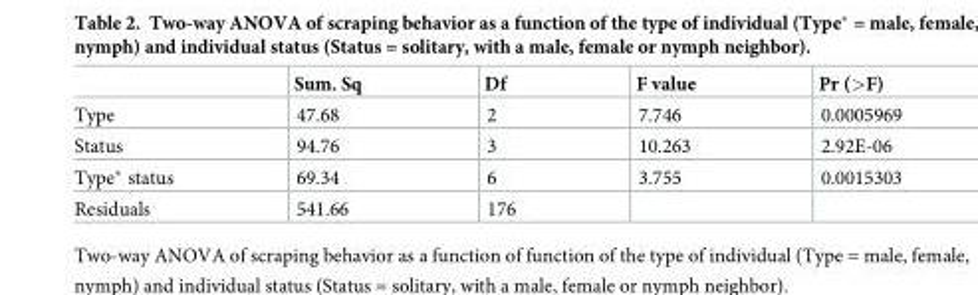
<table><thead><tr><td></td><td>Sum. Sq</td><td>Df</td><td>F value</td><td>Pr (&gt;F)</td></tr></thead><tbody><tr><td>Type</td><td>47.68</td><td>2</td><td>7.746</td><td>0.0005969</td></tr><tr><td>Status</td><td>94.76</td><td>3</td><td>10.263</td><td>2.92E-06</td></tr><tr><td>Type* status</td><td>69.34</td><td>6</td><td>3.755</td><td>0.0015303</td></tr><tr><td>Residuals</td><td>541.66</td><td>176</td><td></td><td></td></tr></tbody></table>